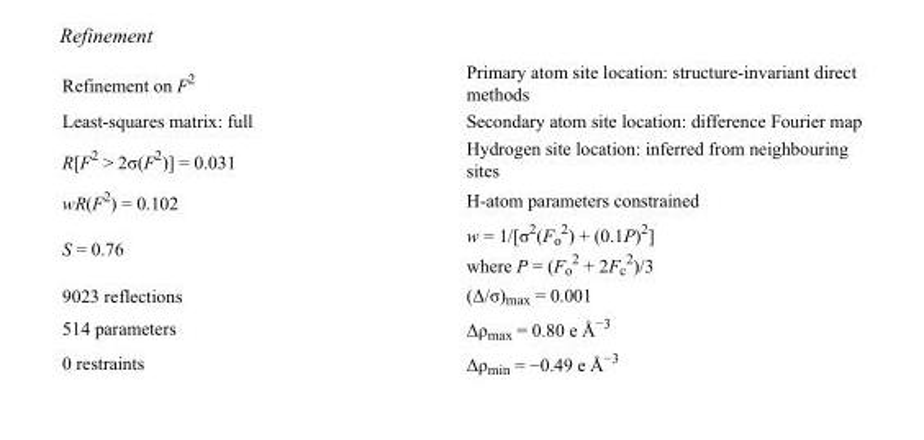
<table><tbody><tr><td>Refinement on F<sup>2</sup></td><td>Primary atom site location: structure-invariant direct methods</td></tr><tr><td>Least-squares matrix: full</td><td>Secondary atom site location: difference Fourier map</td></tr><tr><td>R[F<sup>2</sup> &gt; 2σ(F<sup>2</sup>)] = 0.031</td><td>Hydrogen site location: inferred from neighbouring sites</td></tr><tr><td>wR(F<sup>2</sup>) = 0.102</td><td>H-atom parameters constrained</td></tr><tr><td>S = 0.76</td><td>w = 1/[σ<sup>2</sup>(F<sub>o</sub> <sup>2</sup>) + (0.1P)<sup>2</sup>] where P = (F<sub>o</sub> <sup>2</sup> + 2F<sub>c</sub> <sup>2</sup>)/3</td></tr><tr><td>9023 reflections</td><td>(Δ/σ)<sub>max</sub> = 0.001</td></tr><tr><td>514 parameters</td><td>Δρ<sub>max</sub> = 0.80 e Å<sup>−3</sup></td></tr><tr><td>0 restraints</td><td>Δρ<sub>min</sub> = −0.49 e Å<sup>−3</sup></td></tr></tbody></table>